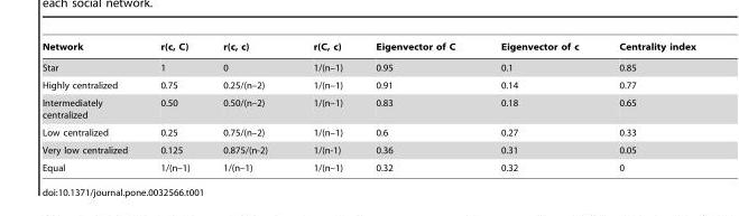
<table><thead><tr><td>Network</td><td>r(c, C)</td><td>r(c, c)</td><td>r(C, c)</td><td>Eigenvector of C</td><td>Eigenvector of c</td><td>Centrality index</td></tr></thead><tbody><tr><td>Star</td><td>1</td><td>0</td><td>1/(n–1)</td><td>0.95</td><td>0.1</td><td>0.85</td></tr><tr><td>Highly centralized</td><td>0.75</td><td>0.25/(n–2)</td><td>1/(n–1)</td><td>0.91</td><td>0.14</td><td>0.77</td></tr><tr><td>Intermediately centralized</td><td>0.50</td><td>0.50/(n–2)</td><td>1/(n–1)</td><td>0.83</td><td>0.18</td><td>0.65</td></tr><tr><td>Low centralized</td><td>0.25</td><td>0.75/(n–2)</td><td>1/(n–1)</td><td>0.6</td><td>0.27</td><td>0.33</td></tr><tr><td>Very low centralized</td><td>0.125</td><td>0.875/(n-2)</td><td>1/(n-1)</td><td>0.36</td><td>0.31</td><td>0.05</td></tr><tr><td>Equal</td><td>1/(n–1)</td><td>1/(n–1)</td><td>1/(n–1)</td><td>0.32</td><td>0.32</td><td>0</td></tr></tbody></table>